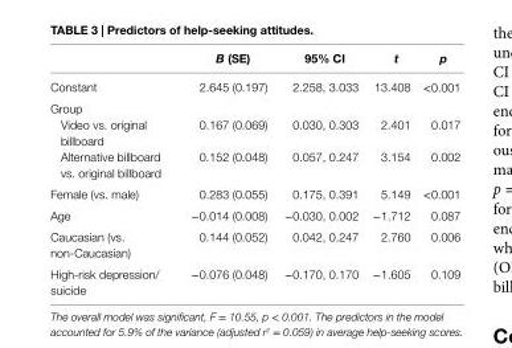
<table><thead><tr><td></td><td>B (se)</td><td>95% ci</td><td>t</td><td>p</td></tr></thead><tbody><tr><td>Constant</td><td>2.645 (0.197)</td><td>2.258, 3.033</td><td>13.408</td><td>&lt;0.001</td></tr><tr><td colspan="5">Group</td></tr><tr><td>Video vs. original billboard</td><td>0.167 (0.069)</td><td>0.030, 0.303</td><td>2.401</td><td>0.017</td></tr><tr><td>Alternative billboard vs. original billboard</td><td>0.152 (0.048)</td><td>0.057, 0.247</td><td>3.154</td><td>0.002</td></tr><tr><td>Female (vs. male)</td><td>0.283 (0.055)</td><td>0.175, 0.391</td><td>5.149</td><td>&lt;0.001</td></tr><tr><td>Age</td><td>−0.014 (0.008)</td><td>−0.030, 0.002</td><td>−1.712</td><td>0.087</td></tr><tr><td>Caucasian (vs. non-Caucasian)</td><td>0.144 (0.052)</td><td>0.042, 0.247</td><td>2.760</td><td>0.006</td></tr><tr><td>High-risk depression/ suicide</td><td>−0.076 (0.048)</td><td>−0.170, 0.170</td><td>−1.605</td><td>0.109</td></tr></tbody></table>